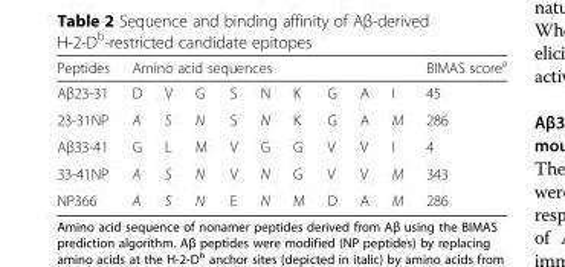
<table><thead><tr><td rowspan="2">Peptides Aβ23-31</td><td colspan="9">Amino acid sequences</td><td rowspan="2">BIMAS score<sup>a</sup> 45</td></tr><tr><td>D</td><td>V</td><td>G</td><td>S</td><td>N</td><td>K</td><td>G</td><td>A</td><td>I</td></tr></thead><tbody><tr><td>23-31NP</td><td>A</td><td>S</td><td>N</td><td>S</td><td>N</td><td>K</td><td>G</td><td>A</td><td>M</td><td>286</td></tr><tr><td>Aβ33-41</td><td>G</td><td>L</td><td>M</td><td>V</td><td>G</td><td>G</td><td>V</td><td>V</td><td>I</td><td>4</td></tr><tr><td>33-41NP</td><td>A</td><td>S</td><td>N</td><td>V</td><td>N</td><td>G</td><td>V</td><td>V</td><td>M</td><td>343</td></tr><tr><td>NP366</td><td>A</td><td>S</td><td>N</td><td>E</td><td>N</td><td>M</td><td>D</td><td>A</td><td>M</td><td>286</td></tr></tbody></table>